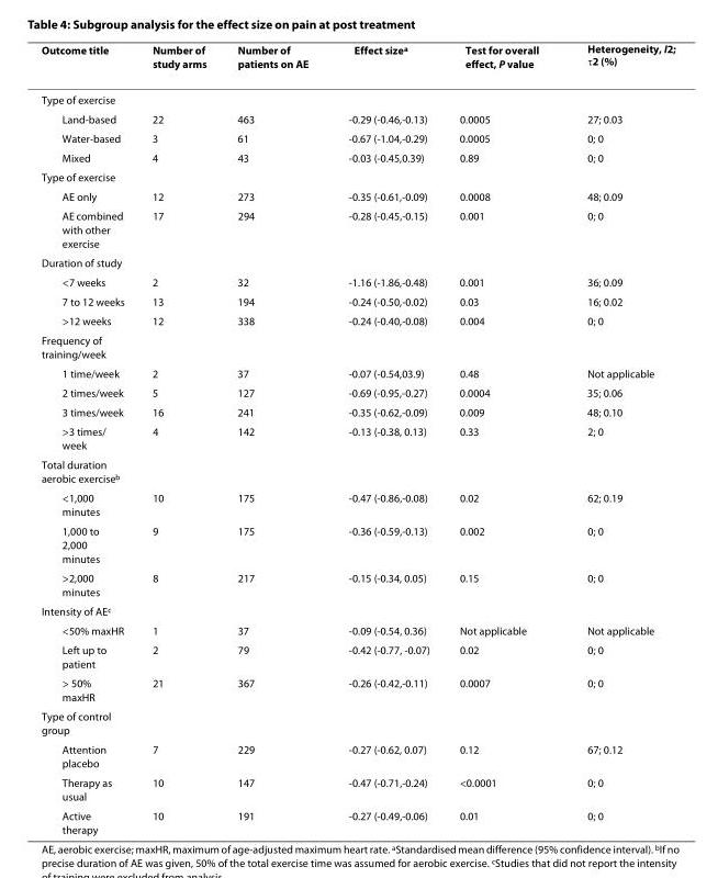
<table><thead><tr><td>Outcome title</td><td>Number of study arms</td><td>Number of patients on AE</td><td>Effect size<sup>a</sup></td><td>Test for overall effect, P value</td><td>Heterogeneity, I<sup>2</sup>; τ<sup>2</sup> (%)</td></tr></thead><tbody><tr><td colspan="6">Type of exercise</td></tr><tr><td>Land-based</td><td>22</td><td>463</td><td>-0.29 (-0.46,-0.13)</td><td>0.0005</td><td>27; 0.03</td></tr><tr><td>Water-based</td><td>3</td><td>61</td><td>-0.67 (-1.04,-0.29)</td><td>0.0005</td><td>0; 0</td></tr><tr><td>Mixed</td><td>4</td><td>43</td><td>-0.03 (-0.45,0.39)</td><td>0.89</td><td>0; 0</td></tr><tr><td colspan="6">Type of exercise</td></tr><tr><td>AE only</td><td>12</td><td>273</td><td>-0.35 (-0.61,-0.09)</td><td>0.0008</td><td>48; 0.09</td></tr><tr><td>AE combined with other exercise</td><td>17</td><td>294</td><td>-0.28 (-0.45,-0.15)</td><td>0.001</td><td>0; 0</td></tr><tr><td colspan="6">Duration of study</td></tr><tr><td>&lt;7 weeks</td><td>2</td><td>32</td><td>-1.16 (-1.86,-0.48)</td><td>0.001</td><td>36; 0.09</td></tr><tr><td>7 to 12 weeks</td><td>13</td><td>194</td><td>-0.24 (-0.50,-0.02)</td><td>0.03</td><td>16; 0.02</td></tr><tr><td>&gt;12 weeks</td><td>12</td><td>338</td><td>-0.24 (-0.40,-0.08)</td><td>0.004</td><td>0; 0</td></tr><tr><td colspan="6">Frequency of training/week</td></tr><tr><td>1 time/week</td><td>2</td><td>37</td><td>-0.07 (-0.54,03.9)</td><td>0.48</td><td>Not applicable</td></tr><tr><td>2 times/week</td><td>5</td><td>127</td><td>-0.69 (-0.95,-0.27)</td><td>0.0004</td><td>35; 0.06</td></tr><tr><td>3 times/week</td><td>16</td><td>241</td><td>-0.35 (-0.62,-0.09)</td><td>0.009</td><td>48; 0.10</td></tr><tr><td>&gt;3 times/ week</td><td>4</td><td>142</td><td>-0.13 (-0.38, 0.13)</td><td>0.33</td><td>2; 0</td></tr><tr><td colspan="6">Total duration aerobic exercise<sup>b</sup></td></tr><tr><td>&lt;1,000 minutes</td><td>10</td><td>175</td><td>-0.47 (-0.86,-0.08)</td><td>0.02</td><td>62; 0.19</td></tr><tr><td>1,000 to 2,000 minutes</td><td>9</td><td>175</td><td>-0.36 (-0.59,-0.13)</td><td>0.002</td><td>0; 0</td></tr><tr><td>&gt;2,000 minutes</td><td>8</td><td>217</td><td>-0.15 (-0.34, 0.05)</td><td>0.15</td><td>0; 0</td></tr><tr><td colspan="6">Intensity of AE<sup>c</sup></td></tr><tr><td>&lt;50% maxHR</td><td>1</td><td>37</td><td>-0.09 (-0.54, 0.36)</td><td>Not applicable</td><td>Not applicable</td></tr><tr><td>Left up to patient</td><td>2</td><td>79</td><td>-0.42 (-0.77, -0.07)</td><td>0.02</td><td>0; 0</td></tr><tr><td>&gt; 50% maxHR</td><td>21</td><td>367</td><td>-0.26 (-0.42,-0.11)</td><td>0.0007</td><td>0; 0</td></tr><tr><td colspan="6">Type of control group</td></tr><tr><td>Attention placebo</td><td>7</td><td>229</td><td>-0.27 (-0.62, 0.07)</td><td>0.12</td><td>67; 0.12</td></tr><tr><td>Therapy as usual</td><td>10</td><td>147</td><td>-0.47 (-0.71,-0.24)</td><td>&lt;0.0001</td><td>0; 0</td></tr><tr><td>Active therapy</td><td>10</td><td>191</td><td>-0.27 (-0.49,-0.06)</td><td>0.01</td><td>0; 0</td></tr></tbody></table>